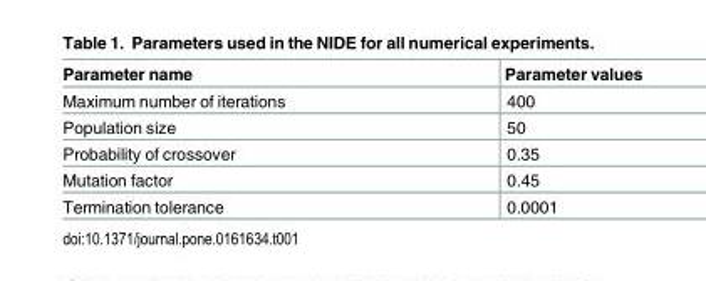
<table><thead><tr><td>Parameter name</td><td>Parameter values</td></tr></thead><tbody><tr><td>Maximum number of iterations</td><td>400</td></tr><tr><td>Population size</td><td>50</td></tr><tr><td>Probability of crossover</td><td>0.35</td></tr><tr><td>Mutation factor</td><td>0.45</td></tr><tr><td>Termination tolerance</td><td>0.0001</td></tr></tbody></table>